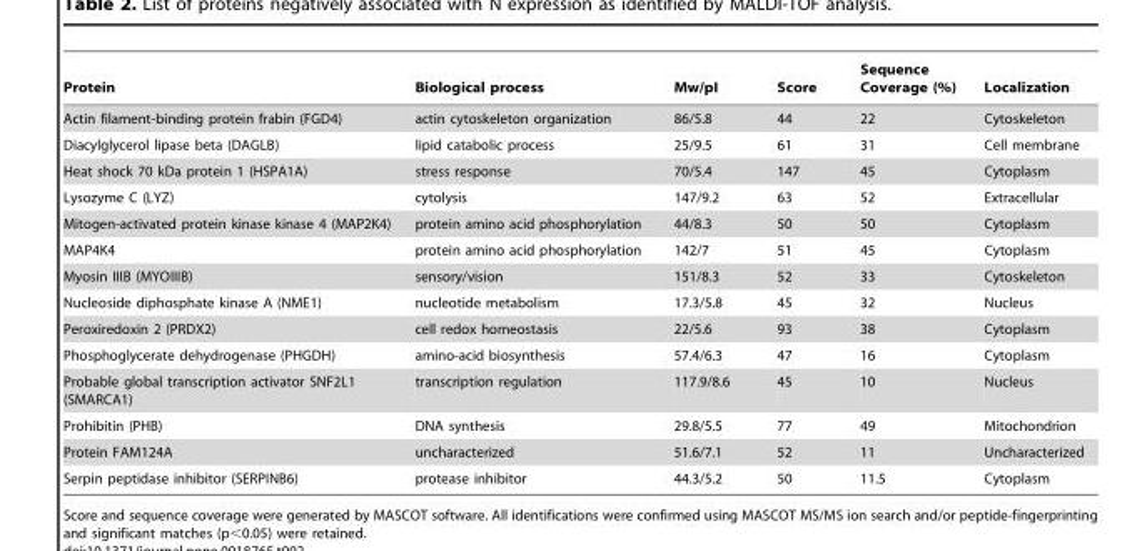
<table><thead><tr><td>Protein</td><td>Biological process</td><td>Mw/pI</td><td>Score</td><td>Sequence Coverage (%)</td><td>Localization</td></tr></thead><tbody><tr><td>Actin filament-binding protein frabin (FGD4)</td><td>actin cytoskeleton organization</td><td>86/5.8</td><td>44</td><td>22</td><td>Cytoskeleton</td></tr><tr><td>Diacylglycerol lipase beta (DAGLB)</td><td>lipid catabolic process</td><td>25/9.5</td><td>61</td><td>31</td><td>Cell membrane</td></tr><tr><td>Heat shock 70 kDa protein 1 (HSPA1A)</td><td>stress response</td><td>70/5.4</td><td>147</td><td>45</td><td>Cytoplasm</td></tr><tr><td>Lysozyme C (LYZ)</td><td>cytolysis</td><td>147/9.2</td><td>63</td><td>52</td><td>Extracellular</td></tr><tr><td>Mitogen-activated protein kinase kinase 4 (MAP2K4)</td><td>protein amino acid phosphorylation</td><td>44/8.3</td><td>50</td><td>50</td><td>Cytoplasm</td></tr><tr><td>MAP4K4</td><td>protein amino acid phosphorylation</td><td>142/7</td><td>51</td><td>45</td><td>Cytoplasm</td></tr><tr><td>Myosin IIIB (MYOIIIB)</td><td>sensory/vision</td><td>151/8.3</td><td>52</td><td>33</td><td>Cytoskeleton</td></tr><tr><td>Nucleoside diphosphate kinase A (NME1)</td><td>nucleotide metabolism</td><td>17.3/5.8</td><td>45</td><td>32</td><td>Nucleus</td></tr><tr><td>Peroxiredoxin 2 (PRDX2)</td><td>cell redox homeostasis</td><td>22/5.6</td><td>93</td><td>38</td><td>Cytoplasm</td></tr><tr><td>Phosphoglycerate dehydrogenase (PHGDH)</td><td>amino-acid biosynthesis</td><td>57.4/6.3</td><td>47</td><td>16</td><td>Cytoplasm</td></tr><tr><td>Probable global transcription activator SNF2L1 (SMARCA1)</td><td>transcription regulation</td><td>117.9/8.6</td><td>45</td><td>10</td><td>Nucleus</td></tr><tr><td>Prohibitin (PHB)</td><td>DNA synthesis</td><td>29.8/5.5</td><td>77</td><td>49</td><td>Mitochondrion</td></tr><tr><td>Protein FAM124A</td><td>uncharacterized</td><td>51.6/7.1</td><td>52</td><td>11</td><td>Uncharacterized</td></tr><tr><td>Serpin peptidase inhibitor (SERPINB6)</td><td>protease inhibitor</td><td>44.3/5.2</td><td>50</td><td>11.5</td><td>Cytoplasm</td></tr></tbody></table>